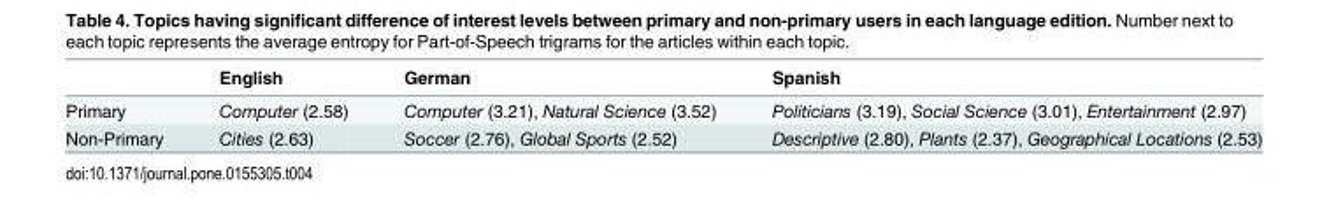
<table><thead><tr><td></td><td>English</td><td>German</td><td>Spanish</td></tr></thead><tbody><tr><td>Primary</td><td>Computer (2.58)</td><td>Computer (3.21), Natural Science (3.52)</td><td>Politicians (3.19), Social Science (3.01), Entertainment (2.97)</td></tr><tr><td>Non-Primary</td><td>Cities (2.63)</td><td>Soccer (2.76), Global Sports (2.52)</td><td>Descriptive (2.80), Plants (2.37), Geographical Locations (2.53)</td></tr></tbody></table>